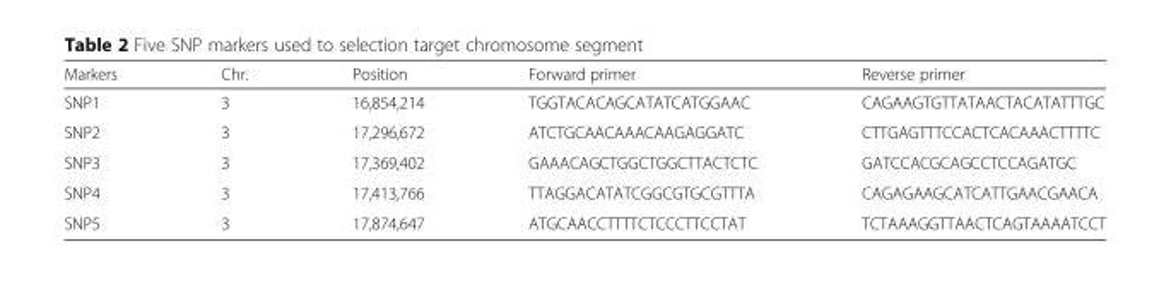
<table><thead><tr><td>Markers</td><td>Chr.</td><td>Position</td><td>Forward primer</td><td>Reverse primer</td></tr></thead><tbody><tr><td>SNP1</td><td>3</td><td>16,854,214</td><td>TGGTACACAGCATATCATGGAAC</td><td>CAGAAGTGTTATAACTACATATTTGC</td></tr><tr><td>SNP2</td><td>3</td><td>17,296,672</td><td>ATCTGCAACAAACAAGAGGATC</td><td>CTTGAGTTTCCACTCACAAACTTTTC</td></tr><tr><td>SNP3</td><td>3</td><td>17,369,402</td><td>GAAACAGCTGGCTGGCTTACTCTC</td><td>GATCCACGCAGCCTCCAGATGC</td></tr><tr><td>SNP4</td><td>3</td><td>17,413,766</td><td>TTAGGACATATCGGCGTGCGTTTA</td><td>CAGAGAAGCATCATTGAACGAACA</td></tr><tr><td>SNP5</td><td>3</td><td>17,874,647</td><td>ATGCAACCTTTTCTCCCTTCCTAT</td><td>TCTAAAGGTTAACTCAGTAAAATCCT</td></tr></tbody></table>